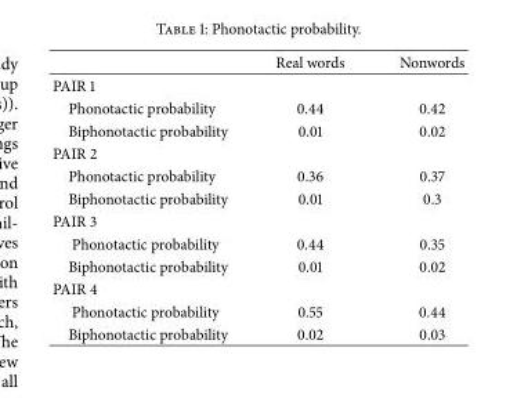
<table><thead><tr><td></td><td>Real words</td><td>Nonwords</td></tr></thead><tbody><tr><td colspan="3">PAIR 1</td></tr><tr><td>Phonotactic probability</td><td>0.44</td><td>0.42</td></tr><tr><td>Biphonotactic probability</td><td>0.01</td><td>0.02</td></tr><tr><td colspan="3">PAIR 2</td></tr><tr><td>Phonotactic probability</td><td>0.36</td><td>0.37</td></tr><tr><td>Biphonotactic probability</td><td>0.01</td><td>0.3</td></tr><tr><td colspan="3">PAIR 3</td></tr><tr><td>Phonotactic probability</td><td>0.44</td><td>0.35</td></tr><tr><td>Biphonotactic probability</td><td>0.01</td><td>0.02</td></tr><tr><td colspan="3">PAIR 4</td></tr><tr><td>Phonotactic probability</td><td>0.55</td><td>0.44</td></tr><tr><td>Biphonotactic probability</td><td>0.02</td><td>0.03</td></tr></tbody></table>